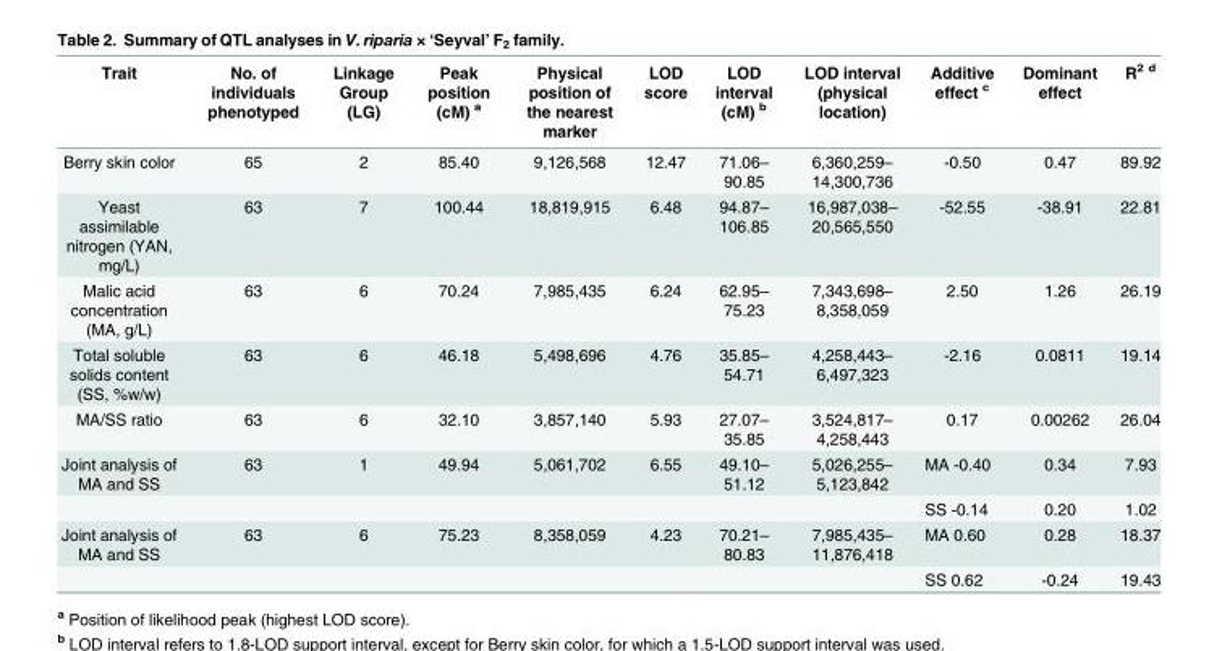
<table><thead><tr><td>Trait</td><td>No. of individuals phenotyped</td><td>Linkage Group (LG)</td><td>Peak position (cM) <sup>a</sup></td><td>Physical position of the nearest marker</td><td>LOD score</td><td>LOD interval (cM) <sup>b</sup></td><td>LOD interval (physical location)</td><td>Additive effect <sup>c</sup></td><td>Dominant effect</td><td>R<sup>2 d</sup></td></tr></thead><tbody><tr><td>Berry skin color</td><td>65</td><td>2</td><td>85.40</td><td>9,126,568</td><td>12.47</td><td>71.06– 90.85</td><td>6,360,259– 14,300,736</td><td>-0.50</td><td>0.47</td><td>89.92</td></tr><tr><td>Yeast assimilable nitrogen (YAN, mg/L)</td><td>63</td><td>7</td><td>100.44</td><td>18,819,915</td><td>6.48</td><td>94.87– 106.85</td><td>16,987,038– 20,565,550</td><td>-52.55</td><td>-38.91</td><td>22.81</td></tr><tr><td>Malic acid concentration (MA, g/L)</td><td>63</td><td>6</td><td>70.24</td><td>7,985,435</td><td>6.24</td><td>62.95– 75.23</td><td>7,343,698– 8,358,059</td><td>2.50</td><td>1.26</td><td>26.19</td></tr><tr><td>Total soluble solids content (SS, %w/w)</td><td>63</td><td>6</td><td>46.18</td><td>5,498,696</td><td>4.76</td><td>35.85– 54.71</td><td>4,258,443– 6,497,323</td><td>-2.16</td><td>0.0811</td><td>19.14</td></tr><tr><td>MA/SS ratio</td><td>63</td><td>6</td><td>32.10</td><td>3,857,140</td><td>5.93</td><td>27.07– 35.85</td><td>3,524,817– 4,258,443</td><td>0.17</td><td>0.00262</td><td>26.04</td></tr><tr><td rowspan="2">Joint analysis of MA and SS</td><td>63</td><td>1</td><td>49.94</td><td>5,061,702</td><td>6.55</td><td>49.10– 51.12</td><td>5,026,255– 5,123,842</td><td>MA -0.40</td><td>0.34</td><td>7.93</td></tr><tr><td></td><td></td><td></td><td></td><td></td><td></td><td></td><td>SS -0.14</td><td>0.20</td><td>1.02</td></tr><tr><td rowspan="2">Joint analysis of MA and SS</td><td>63</td><td>6</td><td>75.23</td><td>8,358,059</td><td>4.23</td><td>70.21– 80.83</td><td>7,985,435– 11,876,418</td><td>MA 0.60</td><td>0.28</td><td>18.37</td></tr><tr><td></td><td></td><td></td><td></td><td></td><td></td><td></td><td>SS 0.62</td><td>-0.24</td><td>19.43</td></tr></tbody></table>